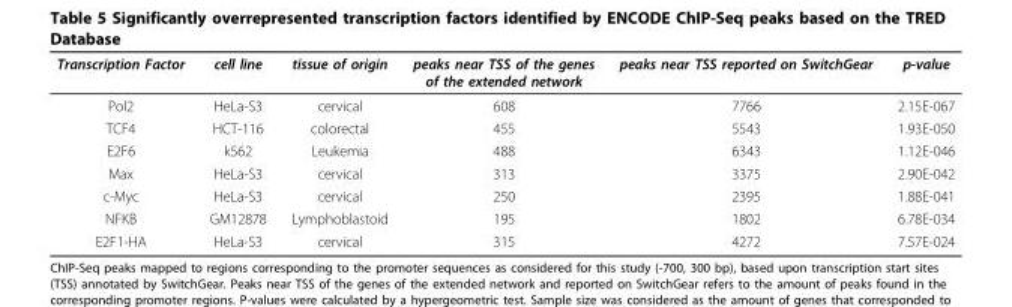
<table><thead><tr><td>Transcription Factor</td><td>cell line</td><td>tissue of origin</td><td>peaks near TSS of the genes of the extended network</td><td>peaks near TSS reported on SwitchGear</td><td>p-value</td></tr></thead><tbody><tr><td>Pol2</td><td>HeLa-S3</td><td>cervical</td><td>608</td><td>7766</td><td>2.15E-067</td></tr><tr><td>TCF4</td><td>HCT-116</td><td>colorectal</td><td>455</td><td>5543</td><td>1.93E-050</td></tr><tr><td>E2F6</td><td>k562</td><td>Leukemia</td><td>488</td><td>6343</td><td>1.12E-046</td></tr><tr><td>Max</td><td>HeLa-S3</td><td>cervical</td><td>313</td><td>3375</td><td>2.90E-042</td></tr><tr><td>c-Myc</td><td>HeLa-S3</td><td>cervical</td><td>250</td><td>2395</td><td>1.88E-041</td></tr><tr><td>NFKB</td><td>GM12878</td><td>Lymphoblastoid</td><td>195</td><td>1802</td><td>6.78E-034</td></tr><tr><td>E2F1-HA</td><td>HeLa-S3</td><td>cervical</td><td>315</td><td>4272</td><td>7.57E-024</td></tr></tbody></table>